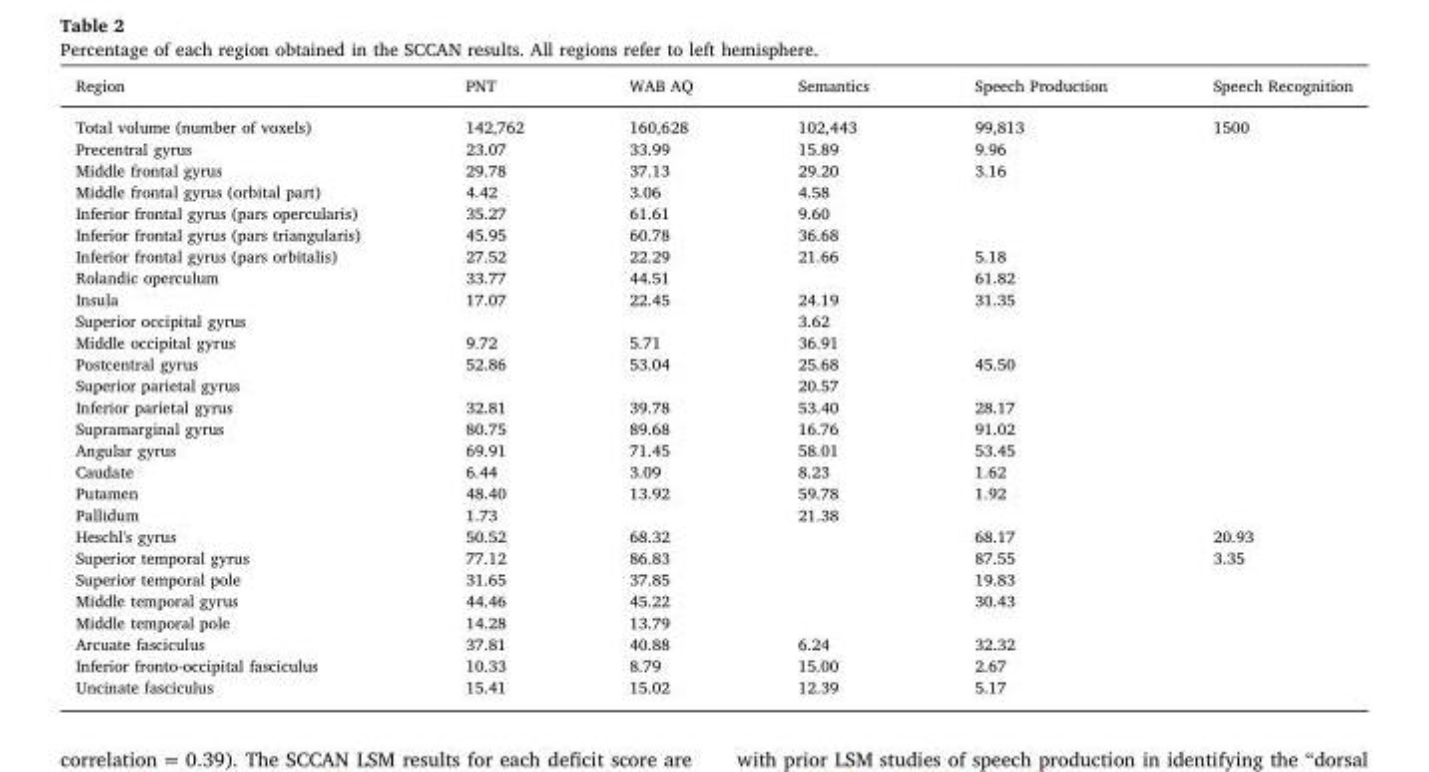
<table><thead><tr><td>Region</td><td>PNT</td><td>WAB AQ</td><td>Semantics</td><td>Speech Production</td><td>Speech Recognition</td></tr></thead><tbody><tr><td>Total volume (number of voxels)</td><td>142,762</td><td>160,628</td><td>102,443</td><td>99,813</td><td>1500</td></tr><tr><td>Precentral gyrus</td><td>23.07</td><td>33.99</td><td>15.89</td><td>9.96</td><td></td></tr><tr><td>Middle frontal gyrus</td><td>29.78</td><td>37.13</td><td>29.20</td><td>3.16</td><td></td></tr><tr><td>Middle frontal gyrus (orbital part)</td><td>4.42</td><td>3.06</td><td>4.58</td><td></td><td></td></tr><tr><td>Inferior frontal gyrus (pars opercularis)</td><td>35.27</td><td>61.61</td><td>9.60</td><td></td><td></td></tr><tr><td>Inferior frontal gyrus (pars triangularis)</td><td>45.95</td><td>60.78</td><td>36.68</td><td></td><td></td></tr><tr><td>Inferior frontal gyrus (pars orbitalis)</td><td>27.52</td><td>22.29</td><td>21.66</td><td>5.18</td><td></td></tr><tr><td>Rolandic operculum</td><td>33.77</td><td>44.51</td><td></td><td>61.82</td><td></td></tr><tr><td>Insula</td><td>17.07</td><td>22.45</td><td>24.19</td><td>31.35</td><td></td></tr><tr><td>Superior occipital gyrus</td><td></td><td></td><td>3.62</td><td></td><td></td></tr><tr><td>Middle occipital gyrus</td><td>9.72</td><td>5.71</td><td>36.91</td><td></td><td></td></tr><tr><td>Postcentral gyrus</td><td>52.86</td><td>53.04</td><td>25.68</td><td>45.50</td><td></td></tr><tr><td>Superior parietal gyrus</td><td></td><td></td><td>20.57</td><td></td><td></td></tr><tr><td>Inferior parietal gyrus</td><td>32.81</td><td>39.78</td><td>53.40</td><td>28.17</td><td></td></tr><tr><td>Supramarginal gyrus</td><td>80.75</td><td>89.68</td><td>16.76</td><td>91.02</td><td></td></tr><tr><td>Angular gyrus</td><td>69.91</td><td>71.45</td><td>58.01</td><td>53.45</td><td></td></tr><tr><td>Caudate</td><td>6.44</td><td>3.09</td><td>8.23</td><td>1.62</td><td></td></tr><tr><td>Putamen</td><td>48.40</td><td>13.92</td><td>59.78</td><td>1.92</td><td></td></tr><tr><td>Pallidum</td><td>1.73</td><td></td><td>21.38</td><td></td><td></td></tr><tr><td>Heschl&#x27;s gyrus</td><td>50.52</td><td>68.32</td><td></td><td>68.17</td><td>20.93</td></tr><tr><td>Superior temporal gyrus</td><td>77.12</td><td>86.83</td><td></td><td>87.55</td><td>3.35</td></tr><tr><td>Superior temporal pole</td><td>31.65</td><td>37.85</td><td></td><td>19.83</td><td></td></tr><tr><td>Middle temporal gyrus</td><td>44.46</td><td>45.22</td><td></td><td>30.43</td><td></td></tr><tr><td>Middle temporal pole</td><td>14.28</td><td>13.79</td><td></td><td></td><td></td></tr><tr><td>Arcuate fasciculus</td><td>37.81</td><td>40.88</td><td>6.24</td><td>32.32</td><td></td></tr><tr><td>Inferior fronto-occipital fasciculus</td><td>10.33</td><td>8.79</td><td>15.00</td><td>2.67</td><td></td></tr><tr><td>Uncinate fasciculus</td><td>15.41</td><td>15.02</td><td>12.39</td><td>5.17</td><td></td></tr></tbody></table>